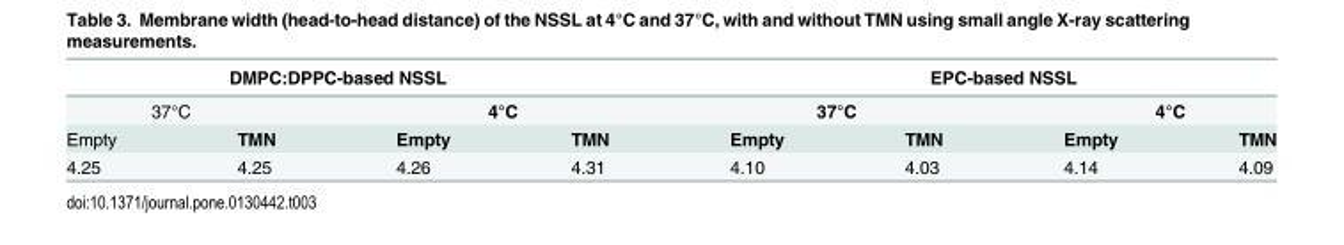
<table><thead><tr><td colspan="4">DMPC:DPPC-based NSSL</td><td colspan="4">EPC-based NSSL</td></tr><tr><td colspan="2">37°C</td><td colspan="2">4°C</td><td colspan="2">37°C</td><td colspan="2">4°C</td></tr><tr><td>Empty</td><td>TMN</td><td>Empty</td><td>TMN</td><td>Empty</td><td>TMN</td><td>Empty</td><td>TMN</td></tr></thead><tbody><tr><td>4.25</td><td>4.25</td><td>4.26</td><td>4.31</td><td>4.10</td><td>4.03</td><td>4.14</td><td>4.09</td></tr></tbody></table>